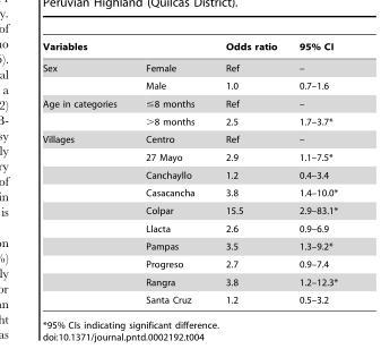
<table><thead><tr><td>Variables</td><td></td><td>Odds ratio</td><td>95% CI</td></tr></thead><tbody><tr><td rowspan="2">Sex</td><td>Female</td><td>Ref</td><td>–</td></tr><tr><td>Male</td><td>1.0</td><td>0.7–1.6</td></tr><tr><td rowspan="2">Age in categories</td><td>≤8 months</td><td>Ref</td><td>–</td></tr><tr><td>&gt;8 months</td><td>2.5</td><td>1.7–3.7*</td></tr><tr><td rowspan="10">Villages</td><td>Centro</td><td>Ref</td><td>–</td></tr><tr><td>27 Mayo</td><td>2.9</td><td>1.1–7.5*</td></tr><tr><td>Canchayllo</td><td>1.2</td><td>0.4–3.4</td></tr><tr><td>Casacancha</td><td>3.8</td><td>1.4–10.0*</td></tr><tr><td>Colpar</td><td>15.5</td><td>2.9–83.1*</td></tr><tr><td>Llacta</td><td>2.6</td><td>0.9–6.9</td></tr><tr><td>Pampas</td><td>3.5</td><td>1.3–9.2*</td></tr><tr><td>Progreso</td><td>2.7</td><td>0.9–7.4</td></tr><tr><td>Rangra</td><td>3.8</td><td>1.2–12.3*</td></tr><tr><td>Santa Cruz</td><td>1.2</td><td>0.5–3.2</td></tr></tbody></table>